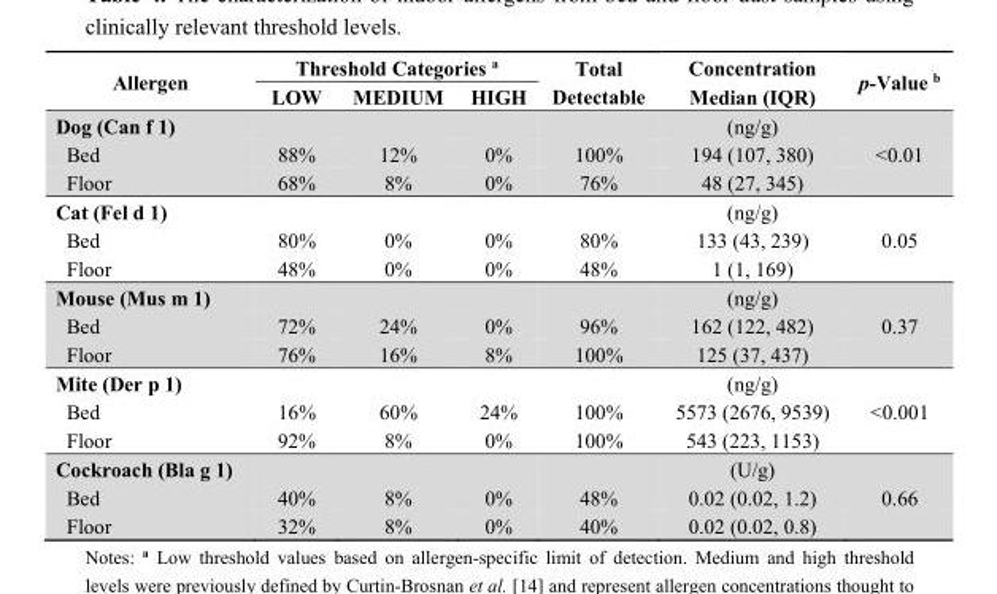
<table><thead><tr><td rowspan="2">Allergen</td><td colspan="3">Threshold Categories <sup>a</sup></td><td rowspan="2">Total Detectable</td><td rowspan="2">Concentration Median (IQR)</td><td rowspan="2">p-Value <sup>b</sup></td></tr><tr><td>LOW</td><td>MEDIUM</td><td>HIGH</td></tr></thead><tbody><tr><td>Dog (Can f 1)</td><td></td><td></td><td></td><td></td><td>(ng/g)</td><td></td></tr><tr><td>Bed</td><td>88%</td><td>12%</td><td>0%</td><td>100%</td><td>194 (107, 380)</td><td>&lt;0.01</td></tr><tr><td>Floor</td><td>68%</td><td>8%</td><td>0%</td><td>76%</td><td>48 (27, 345)</td><td></td></tr><tr><td>Cat (Fel d 1)</td><td></td><td></td><td></td><td></td><td>(ng/g)</td><td></td></tr><tr><td>Bed</td><td>80%</td><td>0%</td><td>0%</td><td>80%</td><td>133 (43, 239)</td><td>0.05</td></tr><tr><td>Floor</td><td>48%</td><td>0%</td><td>0%</td><td>48%</td><td>1 (1, 169)</td><td></td></tr><tr><td>Mouse (Mus m 1)</td><td></td><td></td><td></td><td></td><td>(ng/g)</td><td></td></tr><tr><td>Bed</td><td>72%</td><td>24%</td><td>0%</td><td>96%</td><td>162 (122, 482)</td><td>0.37</td></tr><tr><td>Floor</td><td>76%</td><td>16%</td><td>8%</td><td>100%</td><td>125 (37, 437)</td><td></td></tr><tr><td>Mite (Der p 1)</td><td></td><td></td><td></td><td></td><td>(ng/g)</td><td></td></tr><tr><td>Bed</td><td>16%</td><td>60%</td><td>24%</td><td>100%</td><td>5573 (2676, 9539)</td><td>&lt;0.001</td></tr><tr><td>Floor</td><td>92%</td><td>8%</td><td>0%</td><td>100%</td><td>543 (223, 1153)</td><td></td></tr><tr><td>Cockroach (Bla g 1)</td><td></td><td></td><td></td><td></td><td>(U/g)</td><td></td></tr><tr><td>Bed</td><td>40%</td><td>8%</td><td>0%</td><td>48%</td><td>0.02 (0.02, 1.2)</td><td>0.66</td></tr><tr><td>Floor</td><td>32%</td><td>8%</td><td>0%</td><td>40%</td><td>0.02 (0.02, 0.8)</td><td></td></tr></tbody></table>